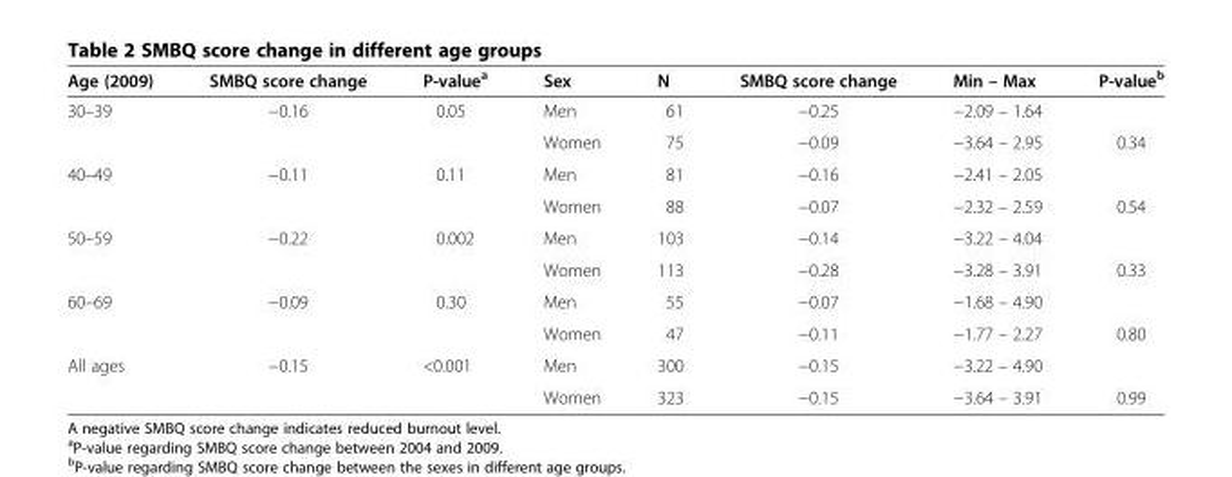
<table><thead><tr><td>Age (2009)</td><td>SMBQ score change</td><td>P-value<sup>a</sup></td><td>Sex</td><td>N</td><td>SMBQ score change</td><td>Min – Max</td><td>P-value<sup>b</sup></td></tr></thead><tbody><tr><td rowspan="2">30–39</td><td>−0.16</td><td>0.05</td><td>Men</td><td>61</td><td>−0.25</td><td>−2.09 – 1.64</td><td></td></tr><tr><td></td><td></td><td>Women</td><td>75</td><td>−0.09</td><td>−3.64 – 2.95</td><td>0.34</td></tr><tr><td rowspan="2">40–49</td><td>−0.11</td><td>0.11</td><td>Men</td><td>81</td><td>−0.16</td><td>−2.41 – 2.05</td><td></td></tr><tr><td></td><td></td><td>Women</td><td>88</td><td>−0.07</td><td>−2.32 – 2.59</td><td>0.54</td></tr><tr><td rowspan="2">50–59</td><td>−0.22</td><td>0.002</td><td>Men</td><td>103</td><td>−0.14</td><td>−3.22 – 4.04</td><td></td></tr><tr><td></td><td></td><td>Women</td><td>113</td><td>−0.28</td><td>−3.28 – 3.91</td><td>0.33</td></tr><tr><td rowspan="2">60–69</td><td>−0.09</td><td>0.30</td><td>Men</td><td>55</td><td>−0.07</td><td>−1.68 – 4.90</td><td></td></tr><tr><td></td><td></td><td>Women</td><td>47</td><td>−0.11</td><td>−1.77 – 2.27</td><td>0.80</td></tr><tr><td rowspan="2">All ages</td><td>−0.15</td><td>&lt;0.001</td><td>Men</td><td>300</td><td>−0.15</td><td>−3.22 – 4.90</td><td></td></tr><tr><td></td><td></td><td>Women</td><td>323</td><td>−0.15</td><td>−3.64 – 3.91</td><td>0.99</td></tr></tbody></table>